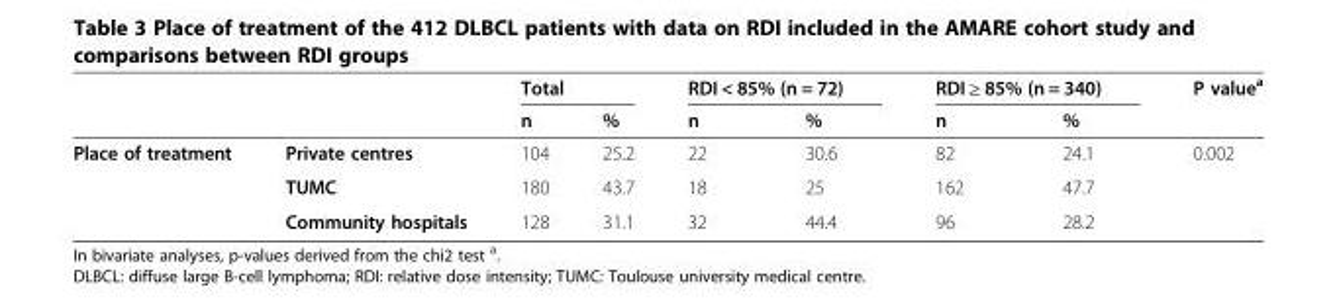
<table><thead><tr><td rowspan="2"></td><td rowspan="2"></td><td colspan="2">Total</td><td colspan="2">RDI &lt; 85% (n = 72)</td><td colspan="2">RDI ≥ 85% (n = 340)</td><td rowspan="2">P value<sup>a</sup></td></tr><tr><td>n</td><td>%</td><td>n</td><td>%</td><td>n</td><td>%</td></tr></thead><tbody><tr><td rowspan="3">Place of treatment</td><td>Private centres</td><td>104</td><td>25.2</td><td>22</td><td>30.6</td><td>82</td><td>24.1</td><td>0.002</td></tr><tr><td>TUMC</td><td>180</td><td>43.7</td><td>18</td><td>25</td><td>162</td><td>47.7</td><td></td></tr><tr><td>Community hospitals</td><td>128</td><td>31.1</td><td>32</td><td>44.4</td><td>96</td><td>28.2</td><td></td></tr></tbody></table>